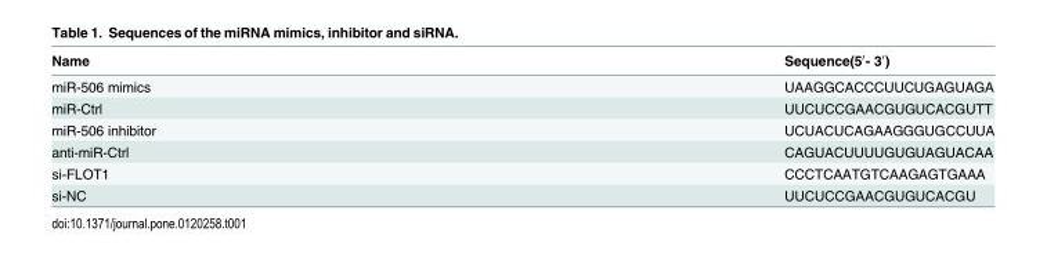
<table><thead><tr><td>Name</td><td>Sequence(5′- 3′)</td></tr></thead><tbody><tr><td>miR-506 mimics</td><td>UAAGGCACCCUUCUGAGUAGA</td></tr><tr><td>miR-Ctrl</td><td>UUCUCCGAACGUGUCACGUTT</td></tr><tr><td>miR-506 inhibitor</td><td>UCUACUCAGAAGGGUGCCUUA</td></tr><tr><td>anti-miR-Ctrl</td><td>CAGUACUUUUGUGUAGUACAA</td></tr><tr><td>si-FLOT1</td><td>CCCTCAATGTCAAGAGTGAAA</td></tr><tr><td>si-NC</td><td>UUCUCCGAACGUGUCACGU</td></tr></tbody></table>